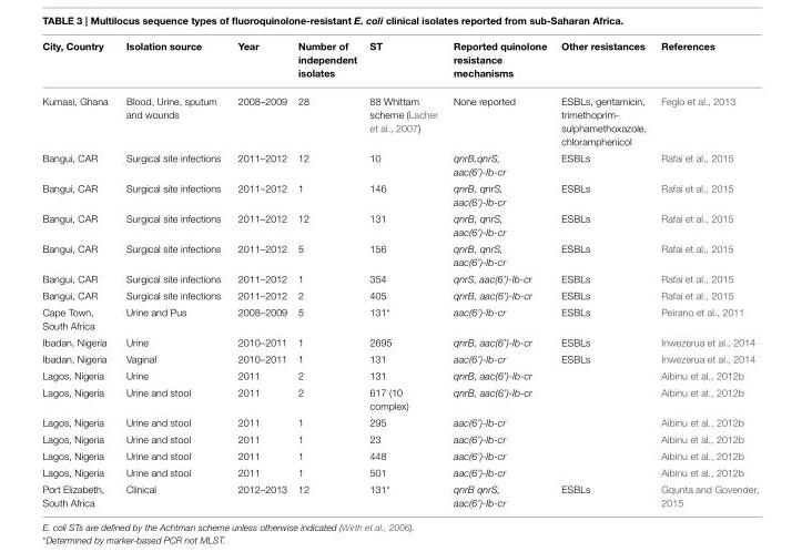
<table><thead><tr><td>City, Country</td><td>Isolation source</td><td>Year</td><td>Number of independent isolates</td><td>ST</td><td>Reported quinolone resistance mechanisms</td><td>Other resistances</td><td>References</td></tr></thead><tbody><tr><td>Kumasi, Ghana</td><td>Blood, Urine, sputum and wounds</td><td>2008–2009</td><td>28</td><td>88 Whittam scheme (Lacher et al., 2007)</td><td>None reported</td><td>ESBLs, gentamicin, trimethoprim- sulphamethoxazole, chloramphenicol</td><td>Feglo et al., 2013</td></tr><tr><td>Bangui, CAR</td><td>Surgical site infections</td><td>2011–2012</td><td>12</td><td>10</td><td>qnrB,qnrS, aac(6’)-Ib-cr</td><td>ESBLs</td><td>Rafai et al., 2015</td></tr><tr><td>Bangui, CAR</td><td>Surgical site infections</td><td>2011–2012</td><td>1</td><td>146</td><td>qnrB, qnrS, aac(6’)-Ib-cr</td><td>ESBLs</td><td>Rafai et al., 2015</td></tr><tr><td>Bangui, CAR</td><td>Surgical site infections</td><td>2011–2012</td><td>12</td><td>131</td><td>qnrB, qnrS, aac(6’)-Ib-cr</td><td>ESBLs</td><td>Rafai et al., 2015</td></tr><tr><td>Bangui, CAR</td><td>Surgical site infections</td><td>2011–2012</td><td>5</td><td>156</td><td>qnrB, qnrS, aac(6’)-Ib-cr</td><td>ESBLs</td><td>Rafai et al., 2015</td></tr><tr><td>Bangui, CAR</td><td>Surgical site infections</td><td>2011–2012</td><td>1</td><td>354</td><td>qnrS, aac(6’)-Ib-cr</td><td>ESBLs</td><td>Rafai et al., 2015</td></tr><tr><td>Bangui, CAR</td><td>Surgical site infections</td><td>2011–2012</td><td>2</td><td>405</td><td>qnrB, aac(6’)-Ib-cr</td><td>ESBLs</td><td>Rafai et al., 2015</td></tr><tr><td>Cape Town, South Africa</td><td>Urine and Pus</td><td>2008–2009</td><td>5</td><td>131*</td><td>aac(6’)-Ib-cr</td><td>ESBLs</td><td>Peirano et al., 2011</td></tr><tr><td>Ibadan, Nigeria</td><td>Urine</td><td>2010–2011</td><td>1</td><td>2695</td><td>qnrB, aac(6’)-Ib-cr</td><td>ESBLs</td><td>Inwezerua et al., 2014</td></tr><tr><td>Ibadan, Nigeria</td><td>Vaginal</td><td>2010–2011</td><td>1</td><td>131</td><td>aac(6’)-Ib-cr</td><td>ESBLs</td><td>Inwezerua et al., 2014</td></tr><tr><td>Lagos, Nigeria</td><td>Urine</td><td>2011</td><td>2</td><td>131</td><td>qnrB, aac(6’)-Ib-cr</td><td></td><td>Aibinu et al., 2012b</td></tr><tr><td>Lagos, Nigeria</td><td>Urine and stool</td><td>2011</td><td>2</td><td>617 (10 complex)</td><td>qnrB, aac(6’)-Ib-cr</td><td></td><td>Aibinu et al., 2012b</td></tr><tr><td>Lagos, Nigeria</td><td>Urine and stool</td><td>2011</td><td>1</td><td>295</td><td>aac(6’)-Ib-cr</td><td></td><td>Aibinu et al., 2012b</td></tr><tr><td>Lagos, Nigeria</td><td>Urine and stool</td><td>2011</td><td>1</td><td>23</td><td>aac(6’)-Ib-cr</td><td></td><td>Aibinu et al., 2012b</td></tr><tr><td>Lagos, Nigeria</td><td>Urine and stool</td><td>2011</td><td>1</td><td>448</td><td>aac(6’)-Ib-cr</td><td></td><td>Aibinu et al., 2012b</td></tr><tr><td>Lagos, Nigeria</td><td>Urine and stool</td><td>2011</td><td>1</td><td>501</td><td>aac(6’)-Ib-cr</td><td></td><td>Aibinu et al., 2012b</td></tr><tr><td>Port Elizabeth, South Africa</td><td>Clinical</td><td>2012–2013</td><td>12</td><td>131*</td><td>qnrB qnrS, aac(6’)-Ib-cr</td><td>ESBLs</td><td>Gqunta and Govender, 2015</td></tr></tbody></table>